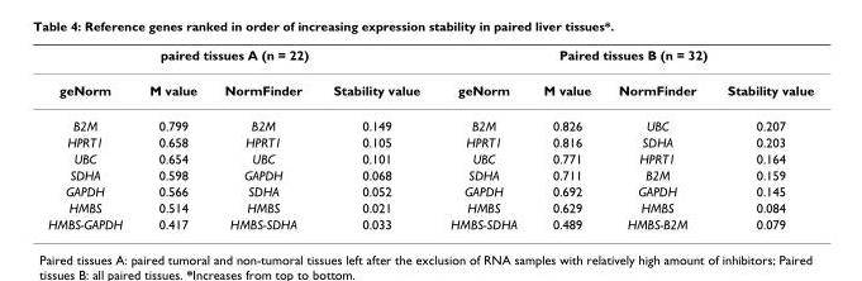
<table><thead><tr><td colspan="4">paired tissues A (n = 22)</td><td colspan="4">Paired tissues B (n = 32)</td></tr><tr><td>geNorm</td><td>M value</td><td>NormFinder</td><td>Stability value</td><td>geNorm</td><td>M value</td><td>NormFinder</td><td>Stability value</td></tr></thead><tbody><tr><td>B2M</td><td>0.799</td><td>B2M</td><td>0.149</td><td>B2M</td><td>0.826</td><td>UBC</td><td>0.207</td></tr><tr><td>HPRT1</td><td>0.658</td><td>HPRT1</td><td>0.105</td><td>HPRT1</td><td>0.816</td><td>SDHA</td><td>0.203</td></tr><tr><td>UBC</td><td>0.654</td><td>UBC</td><td>0.101</td><td>UBC</td><td>0.771</td><td>HPRT1</td><td>0.164</td></tr><tr><td>SDHA</td><td>0.598</td><td>GAPDH</td><td>0.068</td><td>SDHA</td><td>0.711</td><td>B2M</td><td>0.159</td></tr><tr><td>GAPDH</td><td>0.566</td><td>SDHA</td><td>0.052</td><td>GAPDH</td><td>0.692</td><td>GAPDH</td><td>0.145</td></tr><tr><td>HMBS</td><td>0.514</td><td>HMBS</td><td>0.021</td><td>HMBS</td><td>0.629</td><td>HMBS</td><td>0.084</td></tr><tr><td>HMBS-GAPDH</td><td>0.417</td><td>HMBS-SDHA</td><td>0.033</td><td>HMBS-SDHA</td><td>0.489</td><td>HMBS-B2M</td><td>0.079</td></tr></tbody></table>